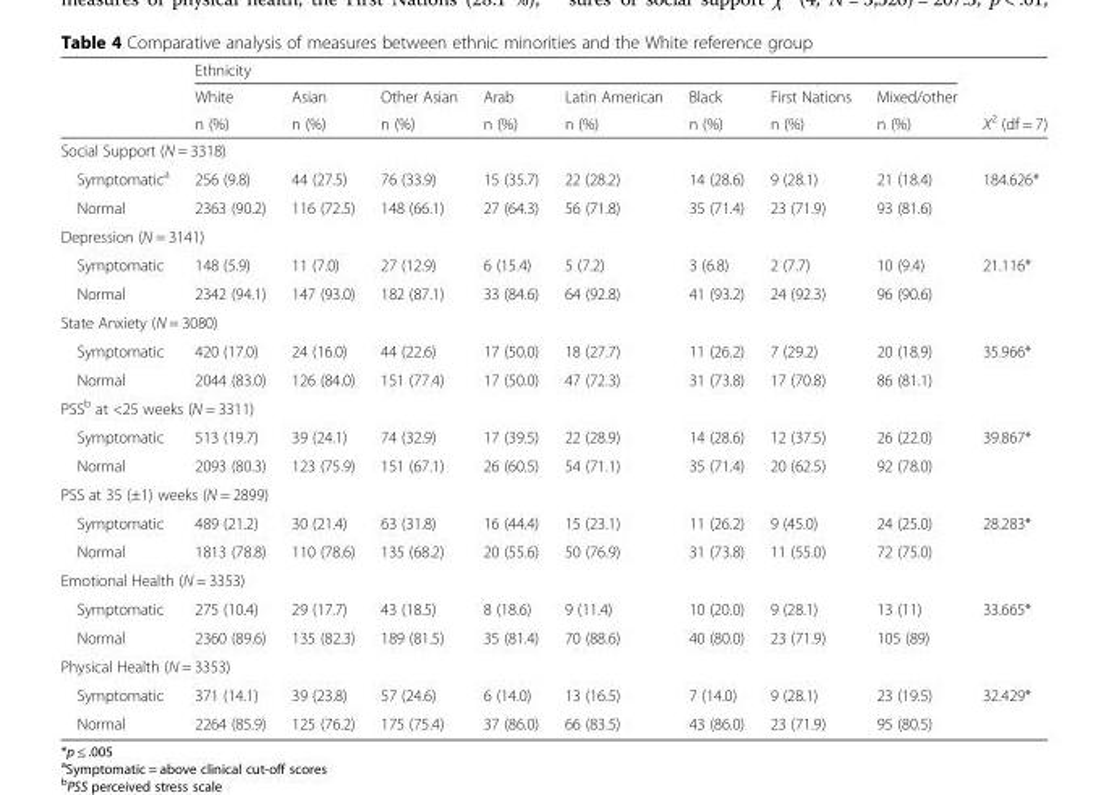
<table><thead><tr><td rowspan="3"></td><td colspan="8">Ethnicity</td><td rowspan="3">X<sup>2</sup> (df = 7)</td></tr><tr><td rowspan="2">White n (%)</td><td rowspan="2">Asian n (%)</td><td rowspan="2">Other Asian n (%)</td><td rowspan="2">Arab n (%)</td><td rowspan="2">Latin American n (%)</td><td rowspan="2">Black n (%)</td><td rowspan="2">First Nations n (%)</td><td rowspan="2">Mixed/other n (%)</td></tr><tr></tr></thead><tbody><tr><td colspan="10">Social Support (N = 3318)</td></tr><tr><td>Symptomatic<sup>a</sup></td><td>256 (9.8)</td><td>44 (27.5)</td><td>76 (33.9)</td><td>15 (35.7)</td><td>22 (28.2)</td><td>14 (28.6)</td><td>9 (28.1)</td><td>21 (18.4)</td><td rowspan="2">184.626*</td></tr><tr><td>Normal</td><td>2363 (90.2)</td><td>116 (72.5)</td><td>148 (66.1)</td><td>27 (64.3)</td><td>56 (71.8)</td><td>35 (71.4)</td><td>23 (71.9)</td><td>93 (81.6)</td></tr><tr><td colspan="10">Depression (N = 3141)</td></tr><tr><td>Symptomatic</td><td>148 (5.9)</td><td>11 (7.0)</td><td>27 (12.9)</td><td>6 (15.4)</td><td>5 (7.2)</td><td>3 (6.8)</td><td>2 (7.7)</td><td>10 (9.4)</td><td rowspan="2">21.116*</td></tr><tr><td>Normal</td><td>2342 (94.1)</td><td>147 (93.0)</td><td>182 (87.1)</td><td>33 (84.6)</td><td>64 (92.8)</td><td>41 (93.2)</td><td>24 (92.3)</td><td>96 (90.6)</td></tr><tr><td colspan="10">State Anxiety (N = 3080)</td></tr><tr><td>Symptomatic</td><td>420 (17.0)</td><td>24 (16.0)</td><td>44 (22.6)</td><td>17 (50.0)</td><td>18 (27.7)</td><td>11 (26.2)</td><td>7 (29.2)</td><td>20 (18.9)</td><td rowspan="2">35.966*</td></tr><tr><td>Normal</td><td>2044 (83.0)</td><td>126 (84.0)</td><td>151 (77.4)</td><td>17 (50.0)</td><td>47 (72.3)</td><td>31 (73.8)</td><td>17 (70.8)</td><td>86 (81.1)</td></tr><tr><td colspan="10">PSS<sup>b</sup> at &lt;25 weeks (N = 3311)</td></tr><tr><td>Symptomatic</td><td>513 (19.7)</td><td>39 (24.1)</td><td>74 (32.9)</td><td>17 (39.5)</td><td>22 (28.9)</td><td>14 (28.6)</td><td>12 (37.5)</td><td>26 (22.0)</td><td rowspan="2">39.867*</td></tr><tr><td>Normal</td><td>2093 (80.3)</td><td>123 (75.9)</td><td>151 (67.1)</td><td>26 (60.5)</td><td>54 (71.1)</td><td>35 (71.4)</td><td>20 (62.5)</td><td>92 (78.0)</td></tr><tr><td colspan="10">PSS at 35 (±1) weeks (N = 2899)</td></tr><tr><td>Symptomatic</td><td>489 (21.2)</td><td>30 (21.4)</td><td>63 (31.8)</td><td>16 (44.4)</td><td>15 (23.1)</td><td>11 (26.2)</td><td>9 (45.0)</td><td>24 (25.0)</td><td rowspan="2">28.283*</td></tr><tr><td>Normal</td><td>1813 (78.8)</td><td>110 (78.6)</td><td>135 (68.2)</td><td>20 (55.6)</td><td>50 (76.9)</td><td>31 (73.8)</td><td>11 (55.0)</td><td>72 (75.0)</td></tr><tr><td colspan="10">Emotional Health (N = 3353)</td></tr><tr><td>Symptomatic</td><td>275 (10.4)</td><td>29 (17.7)</td><td>43 (18.5)</td><td>8 (18.6)</td><td>9 (11.4)</td><td>10 (20.0)</td><td>9 (28.1)</td><td>13 (11)</td><td rowspan="2">33.665*</td></tr><tr><td>Normal</td><td>2360 (89.6)</td><td>135 (82.3)</td><td>189 (81.5)</td><td>35 (81.4)</td><td>70 (88.6)</td><td>40 (80.0)</td><td>23 (71.9)</td><td>105 (89)</td></tr><tr><td colspan="10">Physical Health (N = 3353)</td></tr><tr><td>Symptomatic</td><td>371 (14.1)</td><td>39 (23.8)</td><td>57 (24.6)</td><td>6 (14.0)</td><td>13 (16.5)</td><td>7 (14.0)</td><td>9 (28.1)</td><td>23 (19.5)</td><td rowspan="2">32.429*</td></tr><tr><td>Normal</td><td>2264 (85.9)</td><td>125 (76.2)</td><td>175 (75.4)</td><td>37 (86.0)</td><td>66 (83.5)</td><td>43 (86.0)</td><td>23 (71.9)</td><td>95 (80.5)</td></tr></tbody></table>